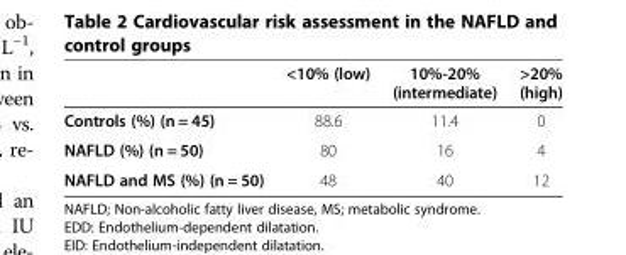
<table><thead><tr><td></td><td>&lt;10% (low)</td><td>10%-20% (intermediate)</td><td>&gt;20% (high)</td></tr></thead><tbody><tr><td>Controls (%) (n = 45)</td><td>88.6</td><td>11.4</td><td>0</td></tr><tr><td>NAFLD (%) (n = 50)</td><td>80</td><td>16</td><td>4</td></tr><tr><td>NAFLD and MS (%) (n = 50)</td><td>48</td><td>40</td><td>12</td></tr></tbody></table>